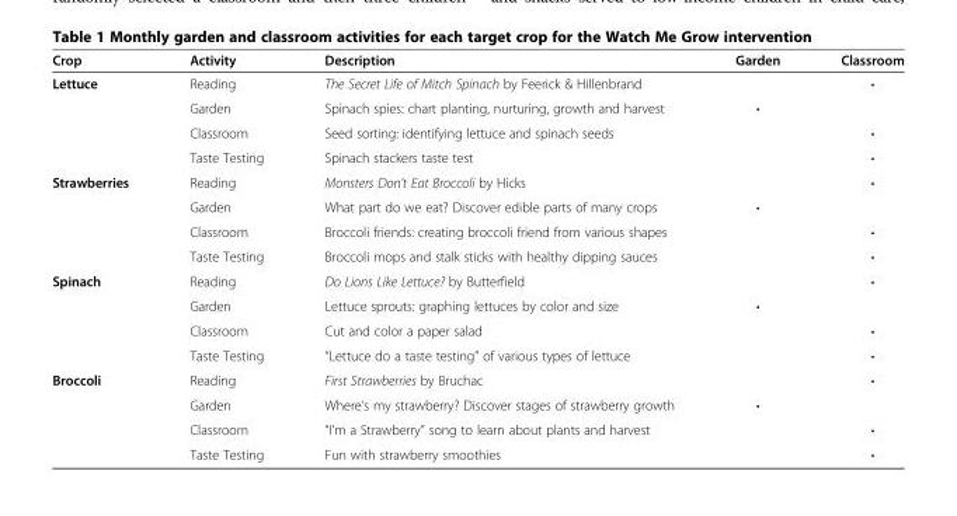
<table><thead><tr><td>Crop</td><td>Activity</td><td>Description</td><td>Garden</td><td>Classroom</td></tr></thead><tbody><tr><td rowspan="4">Lettuce</td><td>Reading</td><td>The Secret Life of Mitch Spinach by Feerick &amp; Hillenbrand</td><td></td><td>•</td></tr><tr><td>Garden</td><td>Spinach spies: chart planting, nurturing, growth and harvest</td><td>•</td><td></td></tr><tr><td>Classroom</td><td>Seed sorting: identifying lettuce and spinach seeds</td><td></td><td>•</td></tr><tr><td>Taste Testing</td><td>Spinach stackers taste test</td><td></td><td>•</td></tr><tr><td rowspan="4">Strawberries</td><td>Reading</td><td>Monsters Don’t Eat Broccoli by Hicks</td><td></td><td>•</td></tr><tr><td>Garden</td><td>What part do we eat? Discover edible parts of many crops</td><td>•</td><td></td></tr><tr><td>Classroom</td><td>Broccoli friends: creating broccoli friend from various shapes</td><td></td><td>•</td></tr><tr><td>Taste Testing</td><td>Broccoli mops and stalk sticks with healthy dipping sauces</td><td></td><td>•</td></tr><tr><td rowspan="4">Spinach</td><td>Reading</td><td>Do Lions Like Lettuce? by Butterfield</td><td></td><td>•</td></tr><tr><td>Garden</td><td>Lettuce sprouts: graphing lettuces by color and size</td><td>•</td><td></td></tr><tr><td>Classroom</td><td>Cut and color a paper salad</td><td></td><td>•</td></tr><tr><td>Taste Testing</td><td>“Lettuce do a taste testing” of various types of lettuce</td><td></td><td>•</td></tr><tr><td rowspan="4">Broccoli</td><td>Reading</td><td>First Strawberries by Bruchac</td><td></td><td>•</td></tr><tr><td>Garden</td><td>Where’s my strawberry? Discover stages of strawberry growth</td><td>•</td><td></td></tr><tr><td>Classroom</td><td>“I’m a Strawberry” song to learn about plants and harvest</td><td></td><td>•</td></tr><tr><td>Taste Testing</td><td>Fun with strawberry smoothies</td><td></td><td>•</td></tr></tbody></table>